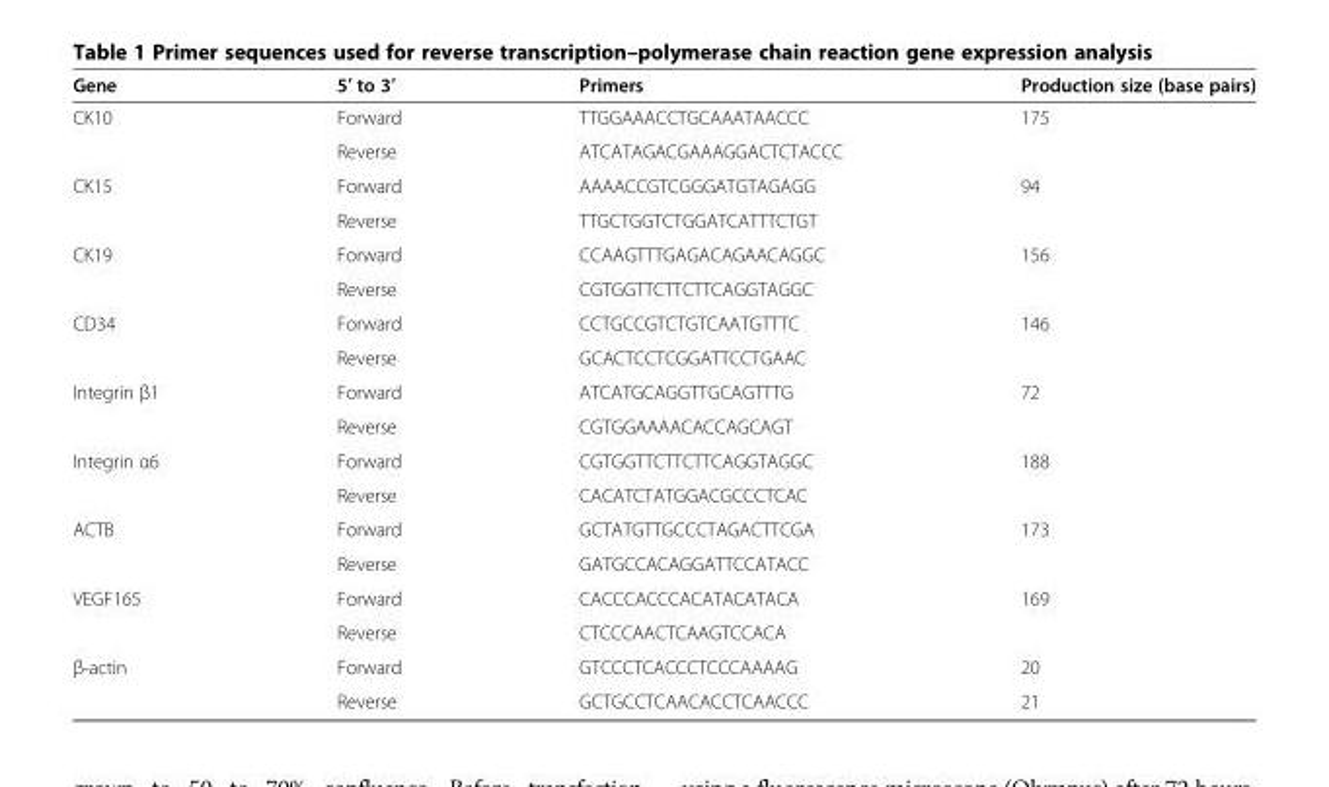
<table><thead><tr><td>Gene</td><td>5′ to 3′</td><td>Primers</td><td>Production size (base pairs)</td></tr></thead><tbody><tr><td rowspan="2">CK10</td><td>Forward</td><td>TTGGAAACCTGCAAATAACCC</td><td rowspan="2">175</td></tr><tr><td>Reverse</td><td>ATCATAGACGAAAGGACTCTACCC</td></tr><tr><td rowspan="2">CK15</td><td>Forward</td><td>AAAACCGTCGGGATGTAGAGG</td><td rowspan="2">94</td></tr><tr><td>Reverse</td><td>TTGCTGGTCTGGATCATTTCTGT</td></tr><tr><td rowspan="2">CK19</td><td>Forward</td><td>CCAAGTTTGAGACAGAACAGGC</td><td rowspan="2">156</td></tr><tr><td>Reverse</td><td>CGTGGTTCTTCTTCAGGTAGGC</td></tr><tr><td rowspan="2">CD34</td><td>Forward</td><td>CCTGCCGTCTGTCAATGTTTC</td><td rowspan="2">146</td></tr><tr><td>Reverse</td><td>GCACTCCTCGGATTCCTGAAC</td></tr><tr><td rowspan="2">Integrin β1</td><td>Forward</td><td>ATCATGCAGGTTGCAGTTTG</td><td rowspan="2">72</td></tr><tr><td>Reverse</td><td>CGTGGAAAACACCAGCAGT</td></tr><tr><td rowspan="2">Integrin α6</td><td>Forward</td><td>CGTGGTTCTTCTTCAGGTAGGC</td><td rowspan="2">188</td></tr><tr><td>Reverse</td><td>CACATCTATGGACGCCCTCAC</td></tr><tr><td rowspan="2">ACTB</td><td>Forward</td><td>GCTATGTTGCCCTAGACTTCGA</td><td rowspan="2">173</td></tr><tr><td>Reverse</td><td>GATGCCACAGGATTCCATACC</td></tr><tr><td rowspan="2">VEGF165</td><td>Forward</td><td>CACCCACCCACATACATACA</td><td rowspan="2">169</td></tr><tr><td>Reverse</td><td>CTCCCAACTCAAGTCCACA</td></tr><tr><td rowspan="2">β-actin</td><td>Forward</td><td>GTCCCTCACCCTCCCAAAAG</td><td>20</td></tr><tr><td>Reverse</td><td>GCTGCCTCAACACCTCAACCC</td><td>21</td></tr></tbody></table>